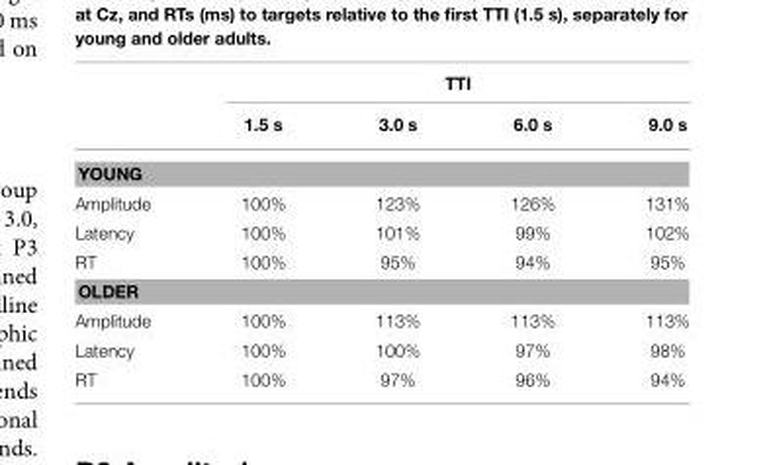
<table><thead><tr><td rowspan="2"></td><td colspan="4">TTI</td></tr><tr><td>1.5 s</td><td>3.0 s</td><td>6.0 s</td><td>9.0 s</td></tr></thead><tbody><tr><td colspan="5">YOUNG</td></tr><tr><td>Amplitude</td><td>100%</td><td>123%</td><td>126%</td><td>131%</td></tr><tr><td>Latency</td><td>100%</td><td>101%</td><td>99%</td><td>102%</td></tr><tr><td>RT</td><td>100%</td><td>95%</td><td>94%</td><td>95%</td></tr><tr><td colspan="5">OLDER</td></tr><tr><td>Amplitude</td><td>100%</td><td>113%</td><td>113%</td><td>113%</td></tr><tr><td>Latency</td><td>100%</td><td>100%</td><td>97%</td><td>98%</td></tr><tr><td>RT</td><td>100%</td><td>97%</td><td>96%</td><td>94%</td></tr></tbody></table>